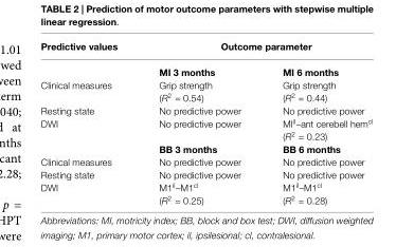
<table><thead><tr><td rowspan="2">Predictive values</td><td colspan="2">Outcome parameter</td></tr><tr><td>MI 3 months</td><td>MI 6 months</td></tr></thead><tbody><tr><td rowspan="2">Clinical measures</td><td>Grip strength</td><td>Grip strength</td></tr><tr><td>(R<sup>2</sup> = 0.54)</td><td>(R<sup>2</sup> = 0.44)</td></tr><tr><td>Resting state</td><td>No predictive power</td><td>No predictive power</td></tr><tr><td rowspan="3">DWI</td><td>No predictive power</td><td>MI<sup>il</sup>–ant cerebell hem<sup>cl</sup></td></tr><tr><td></td><td>(R<sup>2</sup> = 0.23)</td></tr><tr><td>BB 3 months</td><td>BB 6 months</td></tr><tr><td>Clinical measures</td><td>No predictive power</td><td>No predictive power</td></tr><tr><td>Resting state</td><td>No predictive power</td><td>No predictive power</td></tr><tr><td rowspan="2">DWI</td><td>M1<sup>il</sup>–M1<sup>cl</sup></td><td>M1<sup>il</sup>–M1<sup>cl</sup></td></tr><tr><td>(R<sup>2</sup> = 0.25)</td><td>(R<sup>2</sup> = 0.28)</td></tr></tbody></table>